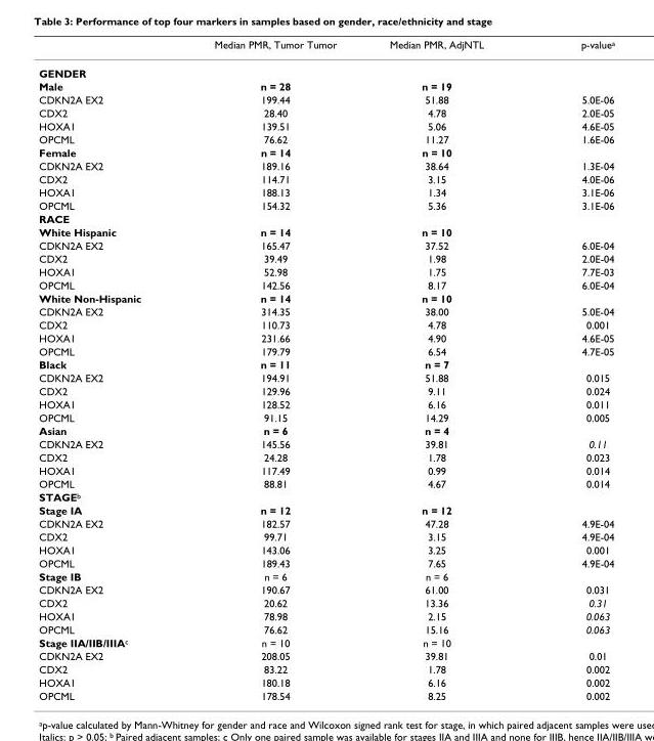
<table><thead><tr><td></td><td>Median PMR, Tumor Tumor</td><td>Median PMR, AdjNTL</td><td>p-value<sup>a</sup></td></tr></thead><tbody><tr><td colspan="4">GENDER</td></tr><tr><td>Male</td><td>n = 28</td><td>n = 19</td><td></td></tr><tr><td>CDKN2A EX2</td><td>199.44</td><td>51.88</td><td>5.0E-06</td></tr><tr><td>CDX2</td><td>28.40</td><td>4.78</td><td>2.0E-05</td></tr><tr><td>HOXA1</td><td>139.51</td><td>5.06</td><td>4.6E-05</td></tr><tr><td>OPCML</td><td>76.62</td><td>11.27</td><td>1.6E-06</td></tr><tr><td>Female</td><td>n = 14</td><td>n = 10</td><td></td></tr><tr><td>CDKN2A EX2</td><td>189.16</td><td>38.64</td><td>1.3E-04</td></tr><tr><td>CDX2</td><td>114.71</td><td>3.15</td><td>4.0E-06</td></tr><tr><td>HOXA1</td><td>188.13</td><td>1.34</td><td>3.1E-06</td></tr><tr><td>OPCML</td><td>154.32</td><td>5.36</td><td>3.1E-06</td></tr><tr><td colspan="4">RACE</td></tr><tr><td>White Hispanic</td><td>n = 14</td><td>n = 10</td><td></td></tr><tr><td>CDKN2A EX2</td><td>165.47</td><td>37.52</td><td>6.0E-04</td></tr><tr><td>CDX2</td><td>39.49</td><td>1.98</td><td>2.0E-04</td></tr><tr><td>HOXA1</td><td>52.98</td><td>1.75</td><td>7.7E-03</td></tr><tr><td>OPCML</td><td>142.56</td><td>8.17</td><td>6.0E-04</td></tr><tr><td>White Non-Hispanic</td><td>n = 14</td><td>n = 10</td><td></td></tr><tr><td>CDKN2A EX2</td><td>314.35</td><td>38.00</td><td>5.0E-04</td></tr><tr><td>CDX2</td><td>110.73</td><td>4.78</td><td>0.001</td></tr><tr><td>HOXA1</td><td>231.66</td><td>4.90</td><td>4.6E-05</td></tr><tr><td>OPCML</td><td>179.79</td><td>6.54</td><td>4.7E-05</td></tr><tr><td>Black</td><td>n = 11</td><td>n = 7</td><td></td></tr><tr><td>CDKN2A EX2</td><td>194.91</td><td>51.88</td><td>0.015</td></tr><tr><td>CDX2</td><td>129.96</td><td>9.11</td><td>0.024</td></tr><tr><td>HOXA1</td><td>128.52</td><td>6.16</td><td>0.011</td></tr><tr><td>OPCML</td><td>91.15</td><td>14.29</td><td>0.005</td></tr><tr><td>Asian</td><td>n = 6</td><td>n = 4</td><td></td></tr><tr><td>CDKN2A EX2</td><td>145.56</td><td>39.81</td><td>0.11</td></tr><tr><td>CDX2</td><td>24.28</td><td>1.78</td><td>0.023</td></tr><tr><td>HOXA1</td><td>117.49</td><td>0.99</td><td>0.014</td></tr><tr><td>OPCML</td><td>88.81</td><td>4.67</td><td>0.014</td></tr><tr><td colspan="4">STAGE<sup>b</sup></td></tr><tr><td>Stage IA</td><td>n = 12</td><td>n = 12</td><td></td></tr><tr><td>CDKN2A EX2</td><td>182.57</td><td>47.28</td><td>4.9E-04</td></tr><tr><td>CDX2</td><td>99.71</td><td>3.15</td><td>4.9E-04</td></tr><tr><td>HOXA1</td><td>143.06</td><td>3.25</td><td>0.001</td></tr><tr><td>OPCML</td><td>189.43</td><td>7.65</td><td>4.9E-04</td></tr><tr><td>Stage IB</td><td>n = 6</td><td>n = 6</td><td></td></tr><tr><td>CDKN2A EX2</td><td>190.67</td><td>61.00</td><td>0.031</td></tr><tr><td>CDX2</td><td>20.62</td><td>13.36</td><td>0.31</td></tr><tr><td>HOXA1</td><td>78.98</td><td>2.15</td><td>0.063</td></tr><tr><td>OPCML</td><td>76.62</td><td>15.16</td><td>0.063</td></tr><tr><td>Stage IIA/IIB/IIIA<sup>c</sup></td><td>n = 10</td><td>n = 10</td><td></td></tr><tr><td>CDKN2A EX2</td><td>208.05</td><td>39.81</td><td>0.01</td></tr><tr><td>CDX2</td><td>83.22</td><td>1.78</td><td>0.002</td></tr><tr><td>HOXA1</td><td>180.18</td><td>6.16</td><td>0.002</td></tr><tr><td>OPCML</td><td>178.54</td><td>8.25</td><td>0.002</td></tr></tbody></table>